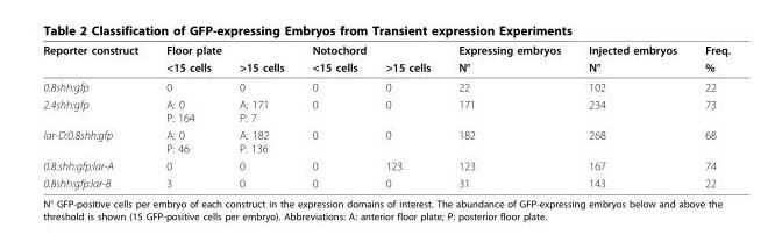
<table><thead><tr><td rowspan="2">Reporter construct</td><td colspan="2">Floor plate</td><td colspan="2">Notochord</td><td rowspan="2">Expressing embryos N°</td><td rowspan="2">Injected embryos N°</td><td rowspan="2">Freq. %</td></tr><tr><td>&lt;15 cells</td><td>&gt;15 cells</td><td>&lt;15 cells</td><td>&gt;15 cells</td></tr></thead><tbody><tr><td>0.8shh:gfp</td><td>0</td><td>0</td><td>0</td><td>0</td><td>22</td><td>102</td><td>22</td></tr><tr><td>2.4shh:gfp</td><td>A: 0 P: 164</td><td>A: 171 P: 7</td><td>0</td><td>0</td><td>171</td><td>234</td><td>73</td></tr><tr><td>lar-D:0.8shh:gfp</td><td>A: 0 P: 46</td><td>A: 182 P: 136</td><td>0</td><td>0</td><td>182</td><td>268</td><td>68</td></tr><tr><td>0.8:shh:gfp:lar-A</td><td>0</td><td>0</td><td>0</td><td>123</td><td>123</td><td>167</td><td>74</td></tr><tr><td>0.8shh:gfp:lar-B</td><td>3</td><td>0</td><td>0</td><td>0</td><td>31</td><td>143</td><td>22</td></tr></tbody></table>